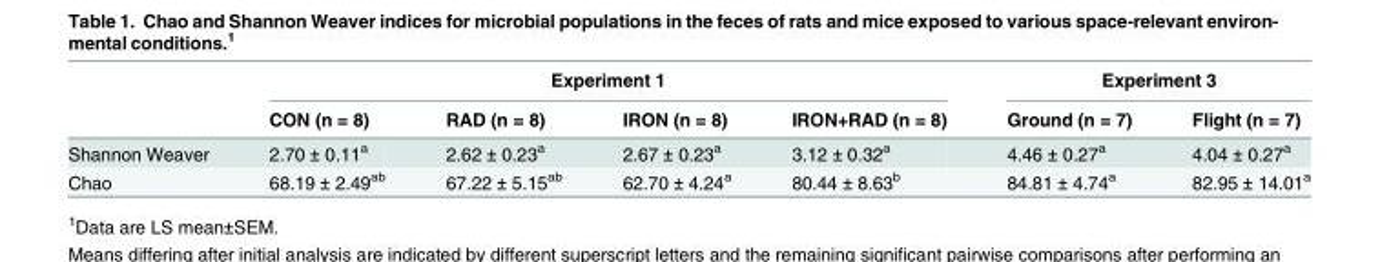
<table><thead><tr><td rowspan="2"></td><td colspan="4">Experiment 1</td><td colspan="2">Experiment 3</td></tr><tr><td>CON (n = 8)</td><td>RAD (n = 8)</td><td>IRON (n = 8)</td><td>IRON+RAD (n = 8)</td><td>Ground (n = 7)</td><td>Flight (n = 7)</td></tr></thead><tbody><tr><td>Shannon Weaver</td><td>2.70 ± 0.11<sup>a</sup></td><td>2.62 ± 0.23<sup>a</sup></td><td>2.67 ± 0.23<sup>a</sup></td><td>3.12 ± 0.32<sup>a</sup></td><td>4.46 ± 0.27<sup>a</sup></td><td>4.04 ± 0.27<sup>a</sup></td></tr><tr><td>Chao</td><td>68.19 ± 2.49<sup>ab</sup></td><td>67.22 ± 5.15<sup>ab</sup></td><td>62.70 ± 4.24<sup>a</sup></td><td>80.44 ± 8.63<sup>b</sup></td><td>84.81 ± 4.74<sup>a</sup></td><td>82.95 ± 14.01<sup>a</sup></td></tr></tbody></table>